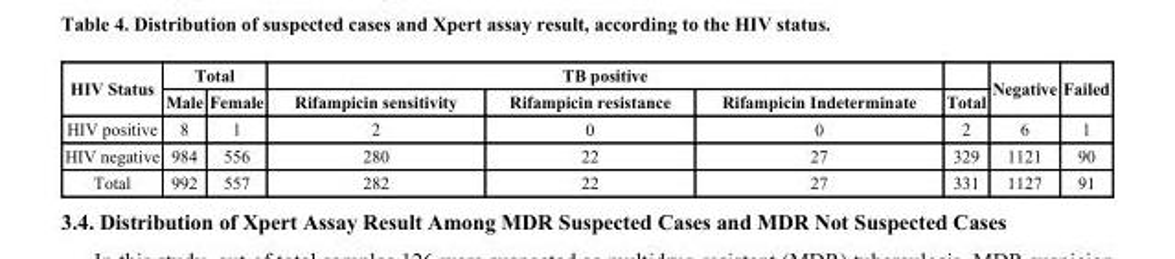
<table><thead><tr><td rowspan="2">HIV Status</td><td colspan="2">Total</td><td colspan="3">TB positive</td><td rowspan="2">Total</td><td rowspan="2">Negative</td><td rowspan="2">Failed</td></tr><tr><td>Male</td><td>Female</td><td>Rifampicin sensitivity</td><td>Rifampicin resistance</td><td>Rifampicin Indeterminate</td></tr></thead><tbody><tr><td>HIV positive</td><td>8</td><td>1</td><td>2</td><td>0</td><td>0</td><td>2</td><td>6</td><td>1</td></tr><tr><td>HIV negative</td><td>984</td><td>556</td><td>280</td><td>22</td><td>27</td><td>329</td><td>1121</td><td>90</td></tr><tr><td>Total</td><td>992</td><td>557</td><td>282</td><td>22</td><td>27</td><td>331</td><td>1127</td><td>91</td></tr></tbody></table>